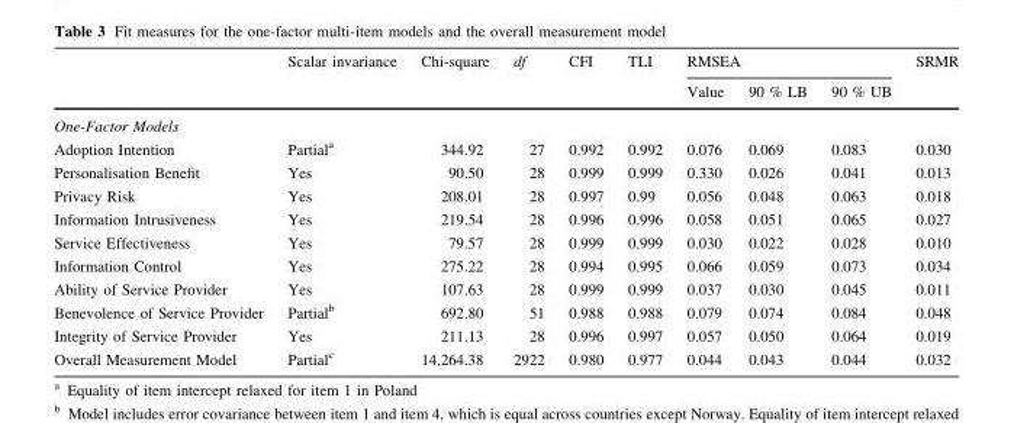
<table><thead><tr><td rowspan="2"></td><td rowspan="2">Scalar invariance</td><td rowspan="2">Chi-square</td><td rowspan="2">df</td><td rowspan="2">CFI</td><td rowspan="2">TLI</td><td colspan="3">RMSEA</td><td rowspan="2">SRMR</td></tr><tr><td>Value</td><td>90 % LB</td><td>90 % UB</td></tr></thead><tbody><tr><td colspan="10">One-Factor Models</td></tr><tr><td>Adoption Intention</td><td>Partial<sup>a</sup></td><td>344.92</td><td>27</td><td>0.992</td><td>0.992</td><td>0.076</td><td>0.069</td><td>0.083</td><td>0.030</td></tr><tr><td>Personalisation Benefit</td><td>Yes</td><td>90.50</td><td>28</td><td>0.999</td><td>0.999</td><td>0.330</td><td>0.026</td><td>0.041</td><td>0.013</td></tr><tr><td>Privacy Risk</td><td>Yes</td><td>208.01</td><td>28</td><td>0.997</td><td>0.99</td><td>0.056</td><td>0.048</td><td>0.063</td><td>0.018</td></tr><tr><td>Information Intrusiveness</td><td>Yes</td><td>219.54</td><td>28</td><td>0.996</td><td>0.996</td><td>0.058</td><td>0.051</td><td>0.065</td><td>0.027</td></tr><tr><td>Service Effectiveness</td><td>Yes</td><td>79.57</td><td>28</td><td>0.999</td><td>0.999</td><td>0.030</td><td>0.022</td><td>0.028</td><td>0.010</td></tr><tr><td>Information Control</td><td>Yes</td><td>275.22</td><td>28</td><td>0.994</td><td>0.995</td><td>0.066</td><td>0.059</td><td>0.073</td><td>0.034</td></tr><tr><td>Ability of Service Provider</td><td>Yes</td><td>107.63</td><td>28</td><td>0.999</td><td>0.999</td><td>0.037</td><td>0.030</td><td>0.045</td><td>0.011</td></tr><tr><td>Benevolence of Service Provider</td><td>Partial<sup>b</sup></td><td>692.80</td><td>51</td><td>0.988</td><td>0.988</td><td>0.079</td><td>0.074</td><td>0.084</td><td>0.048</td></tr><tr><td>Integrity of Service Provider</td><td>Yes</td><td>211.13</td><td>28</td><td>0.996</td><td>0.997</td><td>0.057</td><td>0.050</td><td>0.064</td><td>0.019</td></tr><tr><td>Overall Measurement Model</td><td>Partial<sup>c</sup></td><td>14,264.38</td><td>2922</td><td>0.980</td><td>0.977</td><td>0.044</td><td>0.043</td><td>0.044</td><td>0.032</td></tr></tbody></table>